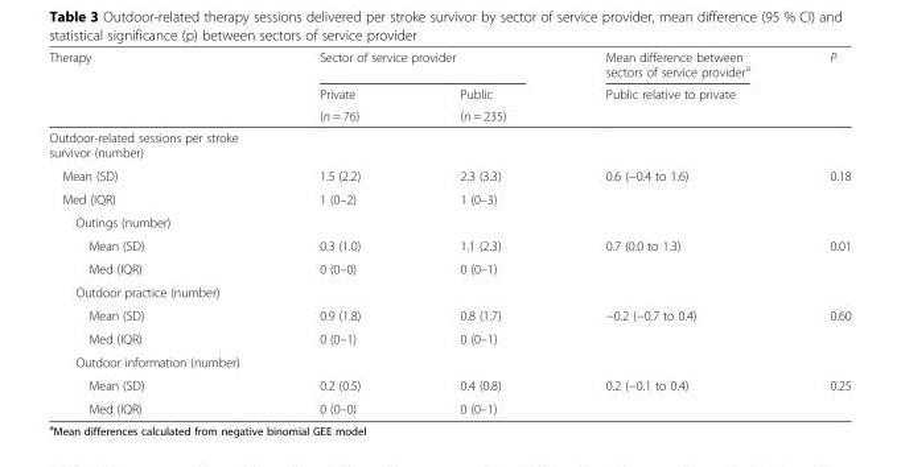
<table><thead><tr><td rowspan="3">Therapy</td><td colspan="2">Sector of service provider</td><td rowspan="3">Mean difference between sectors of service provider<sup>a</sup> Public relative to private</td><td rowspan="3">P</td></tr><tr><td rowspan="2">Private (n = 76)</td><td rowspan="2">Public (n = 235)</td></tr><tr></tr></thead><tbody><tr><td colspan="5">Outdoor-related sessions per stroke survivor (number)</td></tr><tr><td>Mean (SD)</td><td>1.5 (2.2)</td><td>2.3 (3.3)</td><td>0.6 (−0.4 to 1.6)</td><td>0.18</td></tr><tr><td>Med (IQR)</td><td>1 (0–2)</td><td>1 (0–3)</td><td></td><td></td></tr><tr><td colspan="5">Outings (number)</td></tr><tr><td>Mean (SD)</td><td>0.3 (1.0)</td><td>1.1 (2.3)</td><td>0.7 (0.0 to 1.3)</td><td>0.01</td></tr><tr><td>Med (IQR)</td><td>0 (0–0)</td><td>0 (0–1)</td><td></td><td></td></tr><tr><td colspan="5">Outdoor practice (number)</td></tr><tr><td>Mean (SD)</td><td>0.9 (1.8)</td><td>0.8 (1.7)</td><td>−0.2 (−0.7 to 0.4)</td><td>0.60</td></tr><tr><td>Med (IQR)</td><td>0 (0–1)</td><td>0 (0–1)</td><td></td><td></td></tr><tr><td colspan="5">Outdoor information (number)</td></tr><tr><td>Mean (SD)</td><td>0.2 (0.5)</td><td>0.4 (0.8)</td><td>0.2 (−0.1 to 0.4)</td><td>0.25</td></tr><tr><td>Med (IQR)</td><td>0 (0–0)</td><td>0 (0–1)</td><td></td><td></td></tr></tbody></table>